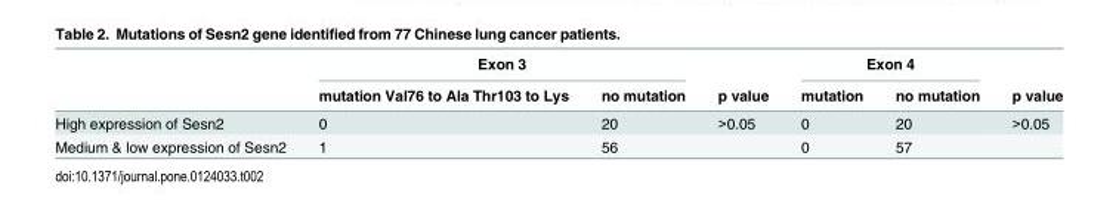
<table><thead><tr><td rowspan="2"></td><td colspan="2">Exon 3</td><td rowspan="2">p value</td><td colspan="2">Exon 4</td><td rowspan="2">p value</td></tr><tr><td>mutation Val76 to Ala Thr103 to Lys</td><td>no mutation</td><td>mutation</td><td>no mutation</td></tr></thead><tbody><tr><td>High expression of Sesn2</td><td>0</td><td>20</td><td>&gt;0.05</td><td>0</td><td>20</td><td>&gt;0.05</td></tr><tr><td>Medium &amp; low expression of Sesn2</td><td>1</td><td>56</td><td></td><td>0</td><td>57</td><td></td></tr></tbody></table>